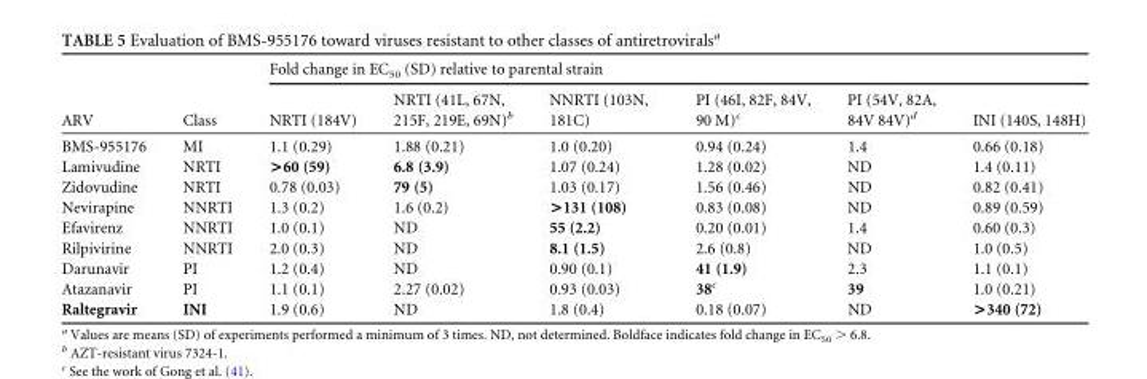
<table><thead><tr><td rowspan="2">ARV</td><td rowspan="2">Class</td><td colspan="6">Fold change in EC<sub>50</sub> (SD) relative to parental strain</td></tr><tr><td>NRTI (184V)</td><td>NRTI (41L, 67N, 215F, 219E, 69N)<sup>b</sup></td><td>NNRTI (103N, 181C)</td><td>PI (46I, 82F, 84V, 90 M)<sup>c</sup></td><td>PI (54V, 82A, 84V 84V)<sup>d</sup></td><td>INI (140S, 148H)</td></tr></thead><tbody><tr><td>BMS-955176</td><td>MI</td><td>1.1 (0.29)</td><td>1.88 (0.21)</td><td>1.0 (0.20)</td><td>0.94 (0.24)</td><td>1.4</td><td>0.66 (0.18)</td></tr><tr><td>Lamivudine</td><td>NRTI</td><td>&gt;60 (59)</td><td>6.8 (3.9)</td><td>1.07 (0.24)</td><td>1.28 (0.02)</td><td>ND</td><td>1.4 (0.11)</td></tr><tr><td>Zidovudine</td><td>NRTI</td><td>0.78 (0.03)</td><td>79 (5)</td><td>1.03 (0.17)</td><td>1.56 (0.46)</td><td>ND</td><td>0.82 (0.41)</td></tr><tr><td>Nevirapine</td><td>NNRTI</td><td>1.3 (0.2)</td><td>1.6 (0.2)</td><td>&gt;131 (108)</td><td>0.83 (0.08)</td><td>ND</td><td>0.89 (0.59)</td></tr><tr><td>Efavirenz</td><td>NNRTI</td><td>1.0 (0.1)</td><td>ND</td><td>55 (2.2)</td><td>0.20 (0.01)</td><td>1.4</td><td>0.60 (0.3)</td></tr><tr><td>Rilpivirine</td><td>NNRTI</td><td>2.0 (0.3)</td><td>ND</td><td>8.1 (1.5)</td><td>2.6 (0.8)</td><td>ND</td><td>1.0 (0.5)</td></tr><tr><td>Darunavir</td><td>PI</td><td>1.2 (0.4)</td><td>ND</td><td>0.90 (0.1)</td><td>41 (1.9)</td><td>2.3</td><td>1.1 (0.1)</td></tr><tr><td>Atazanavir</td><td>PI</td><td>1.1 (0.1)</td><td>2.27 (0.02)</td><td>0.93 (0.03)</td><td>38<sup>c</sup></td><td>39</td><td>1.0 (0.21)</td></tr><tr><td>Raltegravir</td><td>INI</td><td>1.9 (0.6)</td><td>ND</td><td>1.8 (0.4)</td><td>0.18 (0.07)</td><td>ND</td><td>&gt;340 (72)</td></tr></tbody></table>